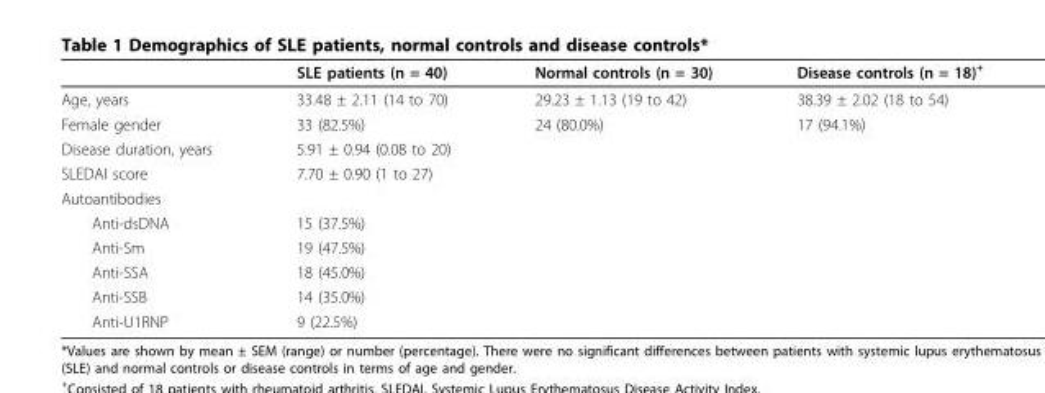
<table><thead><tr><td></td><td>SLE patients (n = 40)</td><td>Normal controls (n = 30)</td><td>Disease controls (n = 18)<sup>+</sup></td></tr></thead><tbody><tr><td>Age, years</td><td>33.48 ± 2.11 (14 to 70)</td><td>29.23 ± 1.13 (19 to 42)</td><td>38.39 ± 2.02 (18 to 54)</td></tr><tr><td>Female gender</td><td>33 (82.5%)</td><td>24 (80.0%)</td><td>17 (94.1%)</td></tr><tr><td>Disease duration, years</td><td>5.91 ± 0.94 (0.08 to 20)</td><td></td><td></td></tr><tr><td>SLEDAI score</td><td>7.70 ± 0.90 (1 to 27)</td><td></td><td></td></tr><tr><td colspan="4">Autoantibodies</td></tr><tr><td>Anti-dsDNA</td><td>15 (37.5%)</td><td></td><td></td></tr><tr><td>Anti-Sm</td><td>19 (47.5%)</td><td></td><td></td></tr><tr><td>Anti-SSA</td><td>18 (45.0%)</td><td></td><td></td></tr><tr><td>Anti-SSB</td><td>14 (35.0%)</td><td></td><td></td></tr><tr><td>Anti-U1RNP</td><td>9 (22.5%)</td><td></td><td></td></tr></tbody></table>